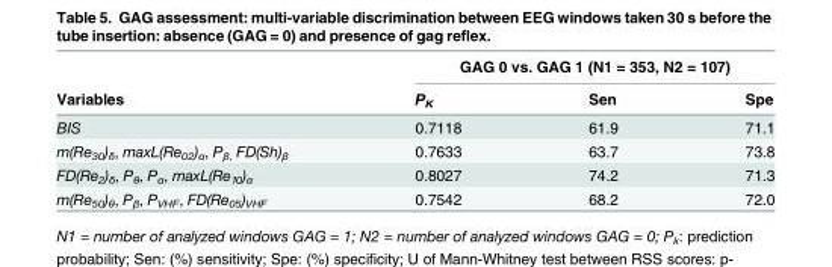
<table><thead><tr><td rowspan="2">Variables</td><td colspan="3">GAG 0 vs. GAG 1 (N1 = 353, N2 = 107)</td></tr><tr><td>P<sub>K</sub></td><td>Sen</td><td>Spe</td></tr></thead><tbody><tr><td>BIS</td><td>0.7118</td><td>61.9</td><td>71.1</td></tr><tr><td>m(Re<sub>30</sub>)<sub>δ</sub>, maxL(Re<sub>02</sub>)<sub>α</sub>, P<sub>β,</sub> FD(Sh)<sub>β</sub></td><td>0.7633</td><td>63.7</td><td>73.8</td></tr><tr><td>FD(Re<sub>2</sub>)<sub>δ</sub>, P<sub>θ</sub>, P<sub>α</sub>, maxL(Re<sub>10</sub>)<sub>α</sub></td><td>0.8027</td><td>74.2</td><td>71.3</td></tr><tr><td>m(Re<sub>50</sub>)<sub>θ</sub>, P<sub>β</sub>, P<sub>VHF</sub>, FD(Re<sub>05</sub>)<sub>VHF</sub></td><td>0.7542</td><td>68.2</td><td>72.0</td></tr></tbody></table>